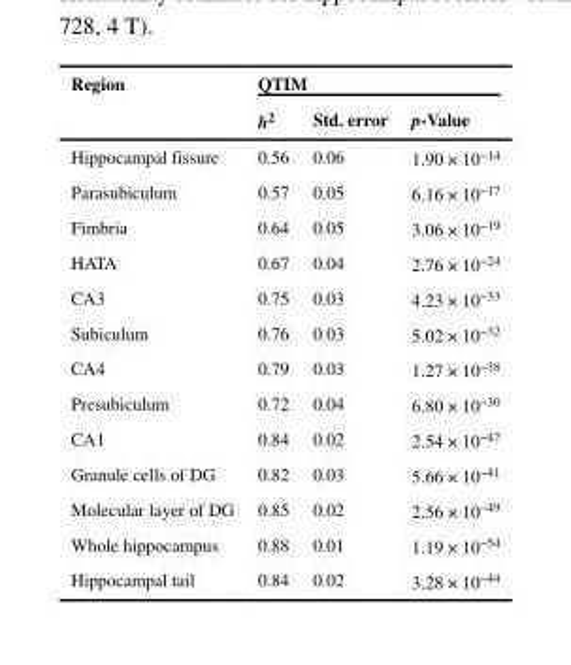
<table><thead><tr><td rowspan="2">Region</td><td colspan="3">QTIM</td></tr><tr><td>h<sup>2</sup></td><td>Std. error</td><td>p-Value</td></tr></thead><tbody><tr><td>Hippocampal fissure</td><td>0.56</td><td>0.06</td><td>1.90 × 10<sup>−14</sup></td></tr><tr><td>Parasubiculum</td><td>0.57</td><td>0.05</td><td>6.16 × 10<sup>−17</sup></td></tr><tr><td>Fimbria</td><td>0.64</td><td>0.05</td><td>3.06 × 10<sup>−19</sup></td></tr><tr><td>HATA</td><td>0.67</td><td>0.04</td><td>2.76 × 10<sup>−24</sup></td></tr><tr><td>CA3</td><td>0.75</td><td>0.03</td><td>4.23 × 10<sup>−33</sup></td></tr><tr><td>Subiculum</td><td>0.76</td><td>0.03</td><td>5.02 × 10<sup>−32</sup></td></tr><tr><td>CA4</td><td>0.79</td><td>0.03</td><td>1.27 × 10<sup>−38</sup></td></tr><tr><td>Presubiculum</td><td>0.72</td><td>0.04</td><td>6.80 × 10<sup>−30</sup></td></tr><tr><td>CA1</td><td>0.84</td><td>0.02</td><td>2.54 × 10<sup>−47</sup></td></tr><tr><td>Granule cells of DG</td><td>0.82</td><td>0.03</td><td>5.66 × 10<sup>−41</sup></td></tr><tr><td>Molecular layer of DG</td><td>0.85</td><td>0.02</td><td>2.56 × 10<sup>−49</sup></td></tr><tr><td>Whole hippocampus</td><td>0.88</td><td>0.01</td><td>1.19 × 10<sup>−54</sup></td></tr><tr><td>Hippocampal tail</td><td>0.84</td><td>0.02</td><td>3.28 × 10<sup>−44</sup></td></tr></tbody></table>